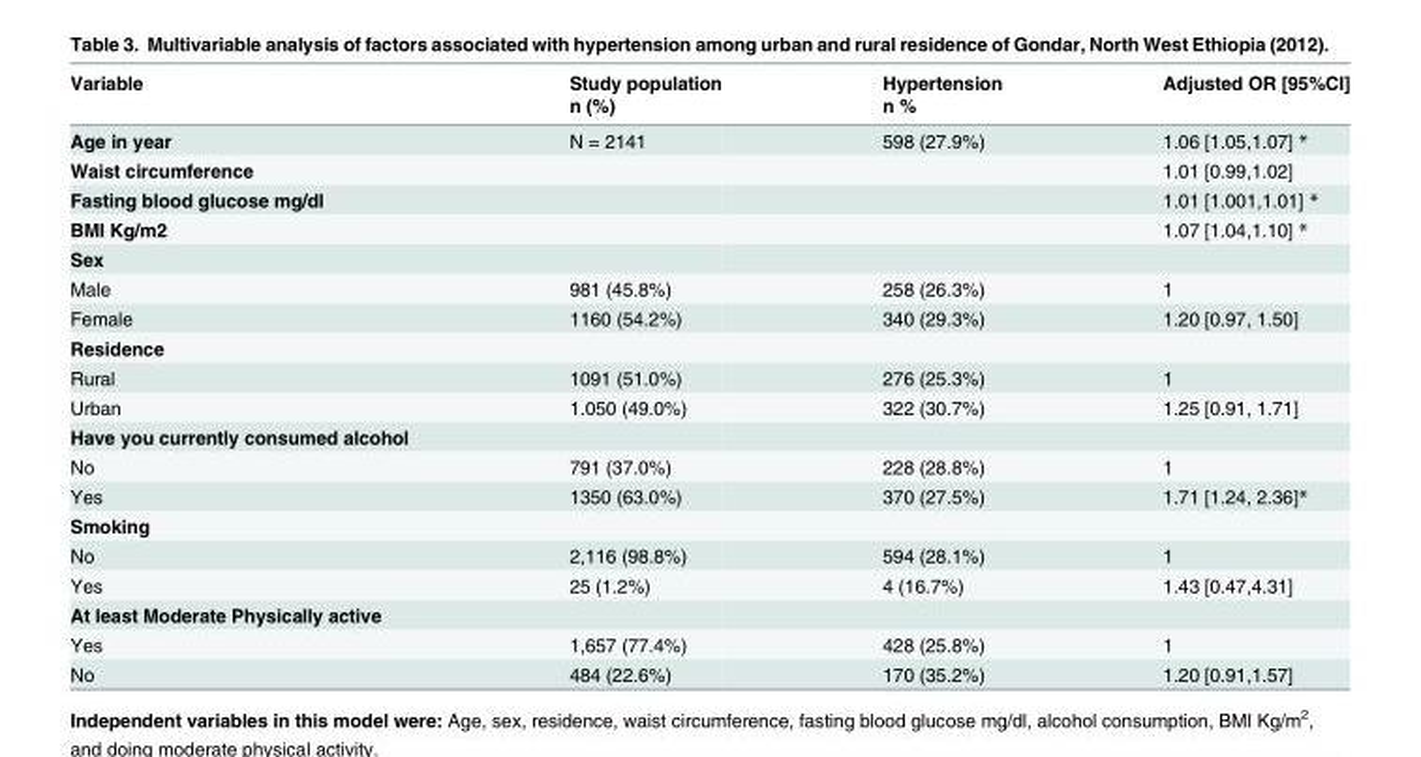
<table><thead><tr><td rowspan="2">Variable</td><td rowspan="2">Study population n (%)</td><td rowspan="2">Hypertension n %</td><td rowspan="2">Adjusted OR [95%CI]</td></tr><tr></tr></thead><tbody><tr><td>Age in year</td><td>N = 2141</td><td>598 (27.9%)</td><td>1.06 [1.05,1.07] *</td></tr><tr><td>Waist circumference</td><td></td><td></td><td>1.01 [0.99,1.02]</td></tr><tr><td>Fasting blood glucose mg/dl</td><td></td><td></td><td>1.01 [1.001,1.01] *</td></tr><tr><td>BMI Kg/m2</td><td></td><td></td><td>1.07 [1.04,1.10] *</td></tr><tr><td colspan="4">Sex</td></tr><tr><td>Male</td><td>981 (45.8%)</td><td>258 (26.3%)</td><td>1</td></tr><tr><td>Female</td><td>1160 (54.2%)</td><td>340 (29.3%)</td><td>1.20 [0.97, 1.50]</td></tr><tr><td colspan="4">Residence</td></tr><tr><td>Rural</td><td>1091 (51.0%)</td><td>276 (25.3%)</td><td>1</td></tr><tr><td>Urban</td><td>1.050 (49.0%)</td><td>322 (30.7%)</td><td>1.25 [0.91, 1.71]</td></tr><tr><td colspan="4">Have you currently consumed alcohol</td></tr><tr><td>No</td><td>791 (37.0%)</td><td>228 (28.8%)</td><td>1</td></tr><tr><td>Yes</td><td>1350 (63.0%)</td><td>370 (27.5%)</td><td>1.71 [1.24, 2.36]*</td></tr><tr><td colspan="4">Smoking</td></tr><tr><td>No</td><td>2,116 (98.8%)</td><td>594 (28.1%)</td><td>1</td></tr><tr><td>Yes</td><td>25 (1.2%)</td><td>4 (16.7%)</td><td>1.43 [0.47,4.31]</td></tr><tr><td colspan="4">At least Moderate Physically active</td></tr><tr><td>Yes</td><td>1,657 (77.4%)</td><td>428 (25.8%)</td><td>1</td></tr><tr><td>No</td><td>484 (22.6%)</td><td>170 (35.2%)</td><td>1.20 [0.91,1.57]</td></tr></tbody></table>